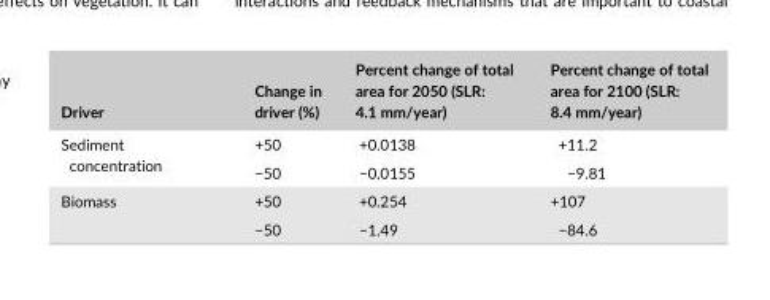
<table><thead><tr><td>Driver</td><td>Change in driver (%)</td><td>Percent change of total area for 2050 (SLR: 4.1 mm/year)</td><td>Percent change of total area for 2100 (SLR: 8.4 mm/year)</td></tr></thead><tbody><tr><td rowspan="2">Sediment concentration</td><td>+50</td><td>+0.0138</td><td>+11.2</td></tr><tr><td>−50</td><td>−0.0155</td><td>−9.81</td></tr><tr><td rowspan="2">Biomass</td><td>+50</td><td>+0.254</td><td>+107</td></tr><tr><td>−50</td><td>−1.49</td><td>−84.6</td></tr></tbody></table>